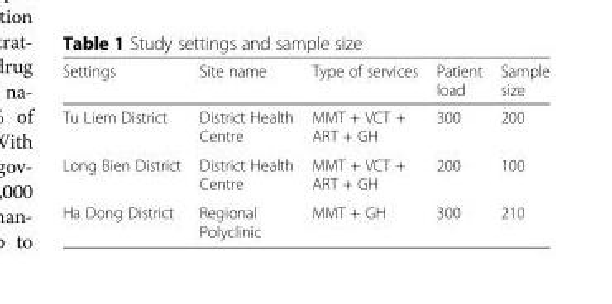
<table><thead><tr><td>Settings</td><td>Site name</td><td>Type of services</td><td>Patient load</td><td>Sample size</td></tr></thead><tbody><tr><td>Tu Liem District</td><td>District Health Centre</td><td>MMT + VCT + ART + GH</td><td>300</td><td>200</td></tr><tr><td>Long Bien District</td><td>District Health Centre</td><td>MMT + VCT + ART + GH</td><td>200</td><td>100</td></tr><tr><td>Ha Dong District</td><td>Regional Polyclinic</td><td>MMT + GH</td><td>300</td><td>210</td></tr></tbody></table>